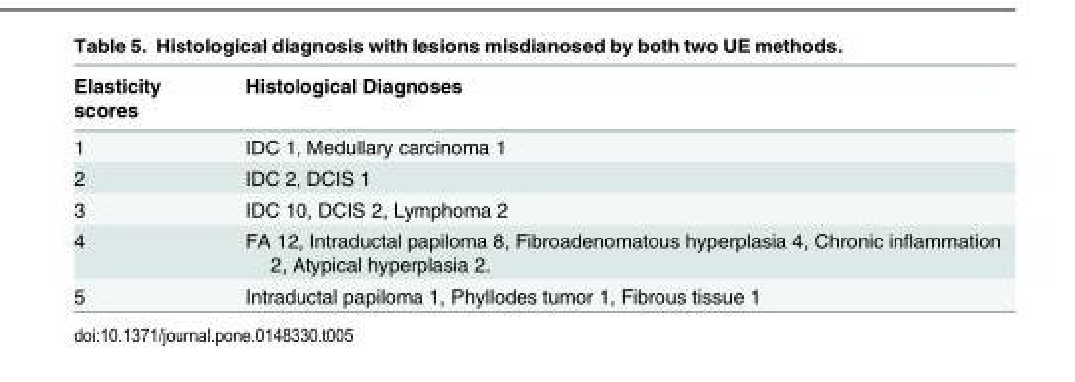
<table><thead><tr><td>Elasticity scores</td><td>Histological Diagnoses</td></tr></thead><tbody><tr><td>1</td><td>IDC 1, Medullary carcinoma 1</td></tr><tr><td>2</td><td>IDC 2, DCIS 1</td></tr><tr><td>3</td><td>IDC 10, DCIS 2, Lymphoma 2</td></tr><tr><td>4</td><td>FA 12, Intraductal papiloma 8, Fibroadenomatous hyperplasia 4, Chronic inflammation 2, Atypical hyperplasia 2.</td></tr><tr><td>5</td><td>Intraductal papiloma 1, Phyllodes tumor 1, Fibrous tissue 1</td></tr></tbody></table>